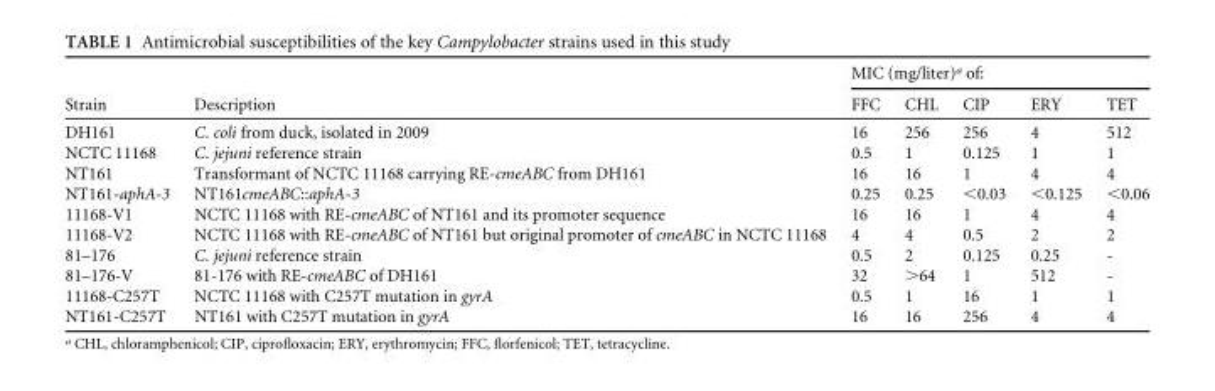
<table><thead><tr><td rowspan="2">Strain</td><td rowspan="2">Description</td><td colspan="5">MIC (mg/liter)<sup>a</sup> of:</td></tr><tr><td>FFC</td><td>CHL</td><td>CIP</td><td>ERY</td><td>TET</td></tr></thead><tbody><tr><td>DH161</td><td>C. coli from duck, isolated in 2009</td><td>16</td><td>256</td><td>256</td><td>4</td><td>512</td></tr><tr><td>NCTC 11168</td><td>C. jejuni reference strain</td><td>0.5</td><td>1</td><td>0.125</td><td>1</td><td>1</td></tr><tr><td>NT161</td><td>Transformant of NCTC 11168 carrying RE-cmeABC from DH161</td><td>16</td><td>16</td><td>1</td><td>4</td><td>4</td></tr><tr><td>NT161-aphA-3</td><td>NT161cmeABC::aphA-3</td><td>0.25</td><td>0.25</td><td>&lt;0.03</td><td>&lt;0.125</td><td>&lt;0.06</td></tr><tr><td>11168-V1</td><td>NCTC 11168 with RE-cmeABC of NT161 and its promoter sequence</td><td>16</td><td>16</td><td>1</td><td>4</td><td>4</td></tr><tr><td>11168-V2</td><td>NCTC 11168 with RE-cmeABC of NT161 but original promoter of cmeABC in NCTC 11168</td><td>4</td><td>4</td><td>0.5</td><td>2</td><td>2</td></tr><tr><td>81–176</td><td>C. jejuni reference strain</td><td>0.5</td><td>2</td><td>0.125</td><td>0.25</td><td>-</td></tr><tr><td>81–176-V</td><td>81-176 with RE-cmeABC of DH161</td><td>32</td><td>&gt;64</td><td>1</td><td>512</td><td>-</td></tr><tr><td>11168-C257T</td><td>NCTC 11168 with C257T mutation in gyrA</td><td>0.5</td><td>1</td><td>16</td><td>1</td><td>1</td></tr><tr><td>NT161-C257T</td><td>NT161 with C257T mutation in gyrA</td><td>16</td><td>16</td><td>256</td><td>4</td><td>4</td></tr></tbody></table>